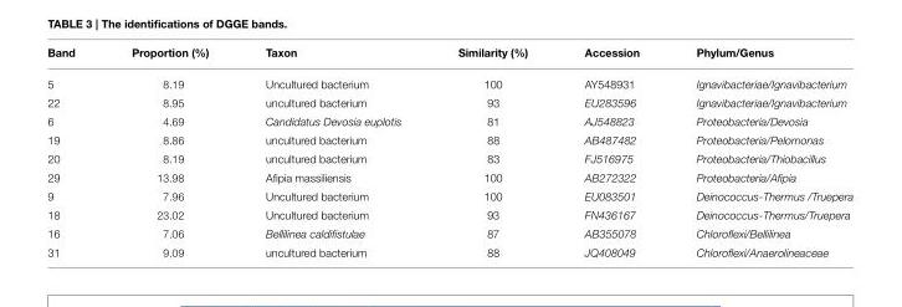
<table><thead><tr><td>Band</td><td>Proportion (%)</td><td>Taxon</td><td>Similarity (%)</td><td>Accession</td><td>Phylum/Genus</td></tr></thead><tbody><tr><td>5</td><td>8.19</td><td>Uncultured bacterium</td><td>100</td><td>AY548931</td><td>Ignavibacteriae/Ignavibacterium</td></tr><tr><td>22</td><td>8.95</td><td>uncultured bacterium</td><td>93</td><td>EU283596</td><td>Ignavibacteriae/Ignavibacterium</td></tr><tr><td>6</td><td>4.69</td><td>Candidatus Devosia euplotis</td><td>81</td><td>AJ548823</td><td>Proteobacteria/Devosia</td></tr><tr><td>19</td><td>8.86</td><td>uncultured bacterium</td><td>88</td><td>AB487482</td><td>Proteobacteria/Pelomonas</td></tr><tr><td>20</td><td>8.19</td><td>uncultured bacterium</td><td>83</td><td>FJ516975</td><td>Proteobacteria/Thiobacillus</td></tr><tr><td>29</td><td>13.98</td><td>Afipia massiliensis</td><td>100</td><td>AB272322</td><td>Proteobacteria/Afipia</td></tr><tr><td>9</td><td>7.96</td><td>Uncultured bacterium</td><td>100</td><td>EU083501</td><td>Deinococcus-Thermus /Truepera</td></tr><tr><td>18</td><td>23.02</td><td>Uncultured bacterium</td><td>93</td><td>FN436167</td><td>Deinococcus-Thermus/Truepera</td></tr><tr><td>16</td><td>7.06</td><td>Bellilinea caldifistulae</td><td>87</td><td>AB355078</td><td>Chloroflexi/Bellilinea</td></tr><tr><td>31</td><td>9.09</td><td>uncultured bacterium</td><td>88</td><td>JQ408049</td><td>Chloroflexi/Anaerolineaceae</td></tr></tbody></table>